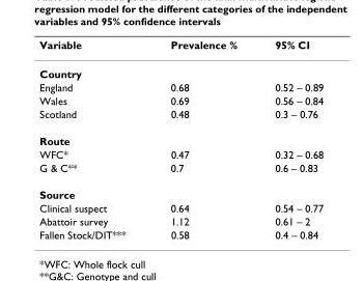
<table><thead><tr><td>Variable</td><td>Prevalence %</td><td>95% CI</td></tr></thead><tbody><tr><td colspan="3">Country</td></tr><tr><td>England</td><td>0.68</td><td>0.52 – 0.89</td></tr><tr><td>Wales</td><td>0.69</td><td>0.56 – 0.84</td></tr><tr><td>Scotland</td><td>0.48</td><td>0.3 – 0.76</td></tr><tr><td colspan="3">Route</td></tr><tr><td>WFC*</td><td>0.47</td><td>0.32 – 0.68</td></tr><tr><td>G &amp; C**</td><td>0.7</td><td>0.6 – 0.83</td></tr><tr><td colspan="3">Source</td></tr><tr><td>Clinical suspect</td><td>0.64</td><td>0.54 – 0.77</td></tr><tr><td>Abattoir survey</td><td>1.12</td><td>0.61 – 2</td></tr><tr><td>Fallen Stock/DIT***</td><td>0.58</td><td>0.4 – 0.84</td></tr></tbody></table>